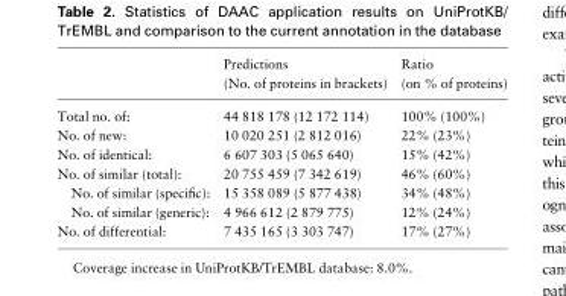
<table><thead><tr><td></td><td>Predictions (No. of proteins in brackets)</td><td>Ratio (on % of proteins)</td></tr></thead><tbody><tr><td>Total no. of:</td><td>44 818 178 (12 172 114)</td><td>100% (100%)</td></tr><tr><td>No. of new:</td><td>10 020 251 (2 812 016)</td><td>22% (23%)</td></tr><tr><td>No. of identical:</td><td>6 607 303 (5 065 640)</td><td>15% (42%)</td></tr><tr><td>No. of similar (total):</td><td>20 755 459 (7 342 619)</td><td>46% (60%)</td></tr><tr><td>No. of similar (specific):</td><td>15 358 089 (5 877 438)</td><td>34% (48%)</td></tr><tr><td>No. of similar (generic):</td><td>4 966 612 (2 879 775)</td><td>12% (24%)</td></tr><tr><td>No. of differential:</td><td>7 435 165 (3 303 747)</td><td>17% (27%)</td></tr></tbody></table>